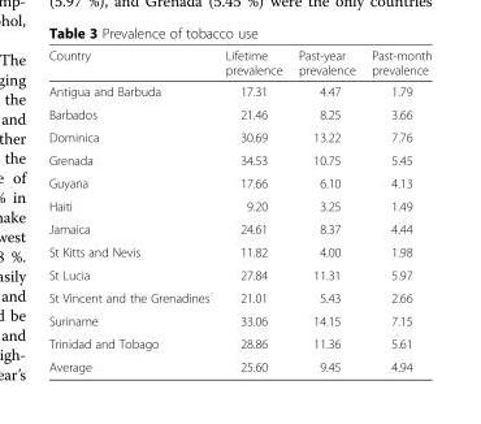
<table><thead><tr><td>Country</td><td>Lifetime prevalence</td><td>Past-year prevalence</td><td>Past-month prevalence</td></tr></thead><tbody><tr><td>Antigua and Barbuda</td><td>17.31</td><td>4.47</td><td>1.79</td></tr><tr><td>Barbados</td><td>21.46</td><td>8.25</td><td>3.66</td></tr><tr><td>Dominica</td><td>30.69</td><td>13.22</td><td>7.76</td></tr><tr><td>Grenada</td><td>34.53</td><td>10.75</td><td>5.45</td></tr><tr><td>Guyana</td><td>17.66</td><td>6.10</td><td>4.13</td></tr><tr><td>Haiti</td><td>9.20</td><td>3.25</td><td>1.49</td></tr><tr><td>Jamaica</td><td>24.61</td><td>8.37</td><td>4.44</td></tr><tr><td>St Kitts and Nevis</td><td>11.82</td><td>4.00</td><td>1.98</td></tr><tr><td>St Lucia</td><td>27.84</td><td>11.31</td><td>5.97</td></tr><tr><td>St Vincent and the Grenadines</td><td>21.01</td><td>5.43</td><td>2.66</td></tr><tr><td>Suriname</td><td>33.06</td><td>14.15</td><td>7.15</td></tr><tr><td>Trinidad and Tobago</td><td>28.86</td><td>11.36</td><td>5.61</td></tr><tr><td>Average</td><td>25.60</td><td>9.45</td><td>4.94</td></tr></tbody></table>